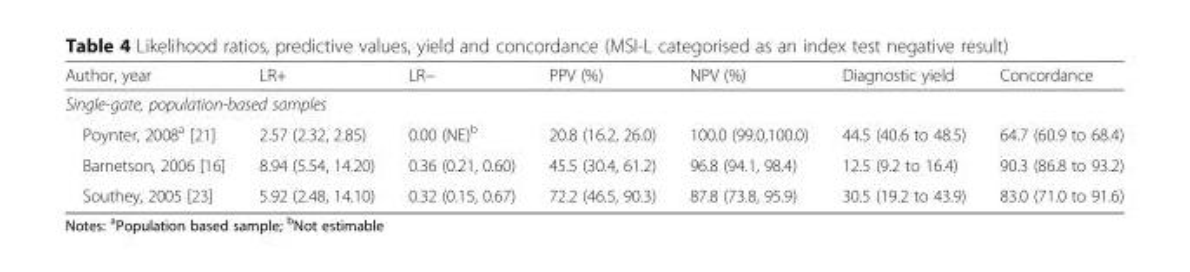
<table><thead><tr><td>Author, year</td><td>LR+</td><td>LR−</td><td>PPV (%)</td><td>NPV (%)</td><td>Diagnostic yield</td><td>Concordance</td></tr></thead><tbody><tr><td colspan="7">Single-gate, population-based samples</td></tr><tr><td>Poynter, 2008<sup>a</sup> [21]</td><td>2.57 (2.32, 2.85)</td><td>0.00 (NE)<sup>b</sup></td><td>20.8 (16.2, 26.0)</td><td>100.0 (99.0,100.0)</td><td>44.5 (40.6 to 48.5)</td><td>64.7 (60.9 to 68.4)</td></tr><tr><td>Barnetson, 2006 [16]</td><td>8.94 (5.54, 14.20)</td><td>0.36 (0.21, 0.60)</td><td>45.5 (30.4, 61.2)</td><td>96.8 (94.1, 98.4)</td><td>12.5 (9.2 to 16.4)</td><td>90.3 (86.8 to 93.2)</td></tr><tr><td>Southey, 2005 [23]</td><td>5.92 (2.48, 14.10)</td><td>0.32 (0.15, 0.67)</td><td>72.2 (46.5, 90.3)</td><td>87.8 (73.8, 95.9)</td><td>30.5 (19.2 to 43.9)</td><td>83.0 (71.0 to 91.6)</td></tr></tbody></table>